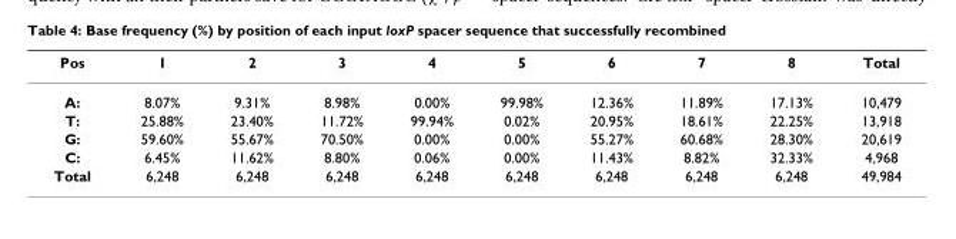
<table><thead><tr><td>Pos</td><td>1</td><td>2</td><td>3</td><td>4</td><td>5</td><td>6</td><td>7</td><td>8</td><td>Total</td></tr></thead><tbody><tr><td>A:</td><td>8.07%</td><td>9.31%</td><td>8.98%</td><td>0.00%</td><td>99.98%</td><td>12.36%</td><td>11.89%</td><td>17.13%</td><td>10,479</td></tr><tr><td>T:</td><td>25.88%</td><td>23.40%</td><td>11.72%</td><td>99.94%</td><td>0.02%</td><td>20.95%</td><td>18.61%</td><td>22.25%</td><td>13,918</td></tr><tr><td>G:</td><td>59.60%</td><td>55.67%</td><td>70.50%</td><td>0.00%</td><td>0.00%</td><td>55.27%</td><td>60.68%</td><td>28.30%</td><td>20,619</td></tr><tr><td>C:</td><td>6.45%</td><td>11.62%</td><td>8.80%</td><td>0.06%</td><td>0.00%</td><td>11.43%</td><td>8.82%</td><td>32.33%</td><td>4,968</td></tr><tr><td>Total</td><td>6,248</td><td>6,248</td><td>6,248</td><td>6,248</td><td>6,248</td><td>6,248</td><td>6,248</td><td>6,248</td><td>49,984</td></tr></tbody></table>